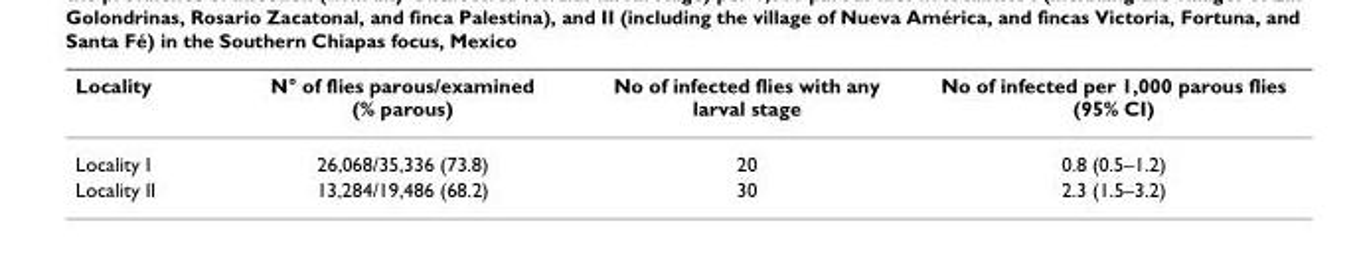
<table><thead><tr><td>Locality</td><td>N° of flies parous/examined (% parous)</td><td>No of infected flies with any larval stage</td><td>No of infected per 1,000 parous flies (95% CI)</td></tr></thead><tbody><tr><td>Locality I</td><td>26,068/35,336 (73.8)</td><td>20</td><td>0.8 (0.5–1.2)</td></tr><tr><td>Locality II</td><td>13,284/19,486 (68.2)</td><td>30</td><td>2.3 (1.5–3.2)</td></tr></tbody></table>